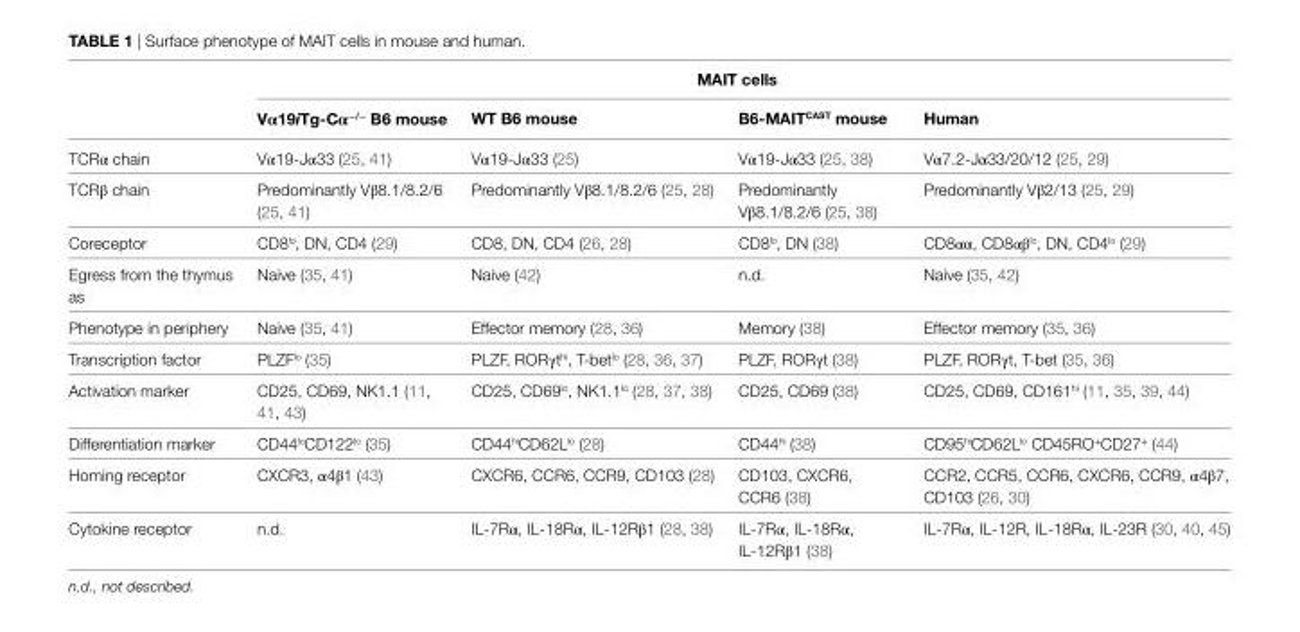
<table><thead><tr><td rowspan="2"></td><td colspan="4">MAiT cells</td></tr><tr><td>vα19iTg-Cα<sup>−/−</sup> b6 mouse</td><td>wT b6 mouse</td><td>b6-MAiT<sup>CAST</sup> mouse</td><td>Human</td></tr></thead><tbody><tr><td>TCRα chain</td><td>Vα19-Jα33 (25, 41)</td><td>Vα19-Jα33 (25)</td><td>Vα19-Jα33 (25, 38)</td><td>Vα7.2-Jα33/20/12 (25, 29)</td></tr><tr><td>TCRβ chain</td><td>Predominantly Vβ8.1/8.2/6 (25, 41)</td><td>Predominantly Vβ8.1/8.2/6 (25, 28)</td><td>Predominantly Vβ8.1/8.2/6 (25, 38)</td><td>Predominantly Vβ2/13 (25, 29)</td></tr><tr><td>Coreceptor</td><td>CD8<sup>lo</sup>, DN, CD4 (29)</td><td>CD8, DN, CD4 (26, 28)</td><td>CD8<sup>lo</sup>, DN (38)</td><td>CD8αα, CD8αβ<sup>lo</sup>, DN, CD4<sup>lo</sup> (29)</td></tr><tr><td>Egress from the thymus as</td><td>Naive (35, 41)</td><td>Naive (42)</td><td>n.d.</td><td>Naive (35, 42)</td></tr><tr><td>Phenotype in periphery</td><td>Naive (35, 41)</td><td>Effector memory (28, 36)</td><td>Memory (38)</td><td>Effector memory (35, 36)</td></tr><tr><td>Transcription factor</td><td>PLZF<sup>lo</sup> (35)</td><td>PLZF, RORγt<sup>hi</sup>, T-bet<sup>lo</sup> (28, 36, 37)</td><td>PLZF, RORγt (38)</td><td>PLZF, RORγt, T-bet (35, 36)</td></tr><tr><td>Activation marker</td><td>CD25, CD69, NK1.1 (11, 41, 43)</td><td>CD25, CD69<sup>lo</sup>, NK1.1<sup>lo</sup> (28, 37, 38)</td><td>CD25, CD69 (38)</td><td>CD25, CD69, CD161<sup>hi</sup> (11, 35, 39, 44)</td></tr><tr><td>Differentiation marker</td><td>CD44<sup>lo</sup>CD122<sup>lo</sup> (35)</td><td>CD44<sup>hi</sup>CD62L<sup>lo</sup> (28)</td><td>CD44<sup>hi</sup> (38)</td><td>CD95<sup>hi</sup>CD62L<sup>lo</sup> CD45RO<sup>+</sup>CD27<sup>+</sup> (44)</td></tr><tr><td>Homing receptor</td><td>CXCR3, α4β1 (43)</td><td>CXCR6, CCR6, CCR9, CD103 (28)</td><td>CD103, CXCR6, CCR6 (38)</td><td>CCR2, CCR5, CCR6, CXCR6, CCR9, α4β7, CD103 (26, 30)</td></tr><tr><td>Cytokine receptor</td><td>n.d.</td><td>IL-7Rα, IL-18Rα, IL-12Rβ1 (28, 38)</td><td>IL-7Rα, IL-18Rα, IL-12Rβ1 (38)</td><td>IL-7Rα, IL-12R, IL-18Rα, IL-23R (30, 40, 45)</td></tr></tbody></table>